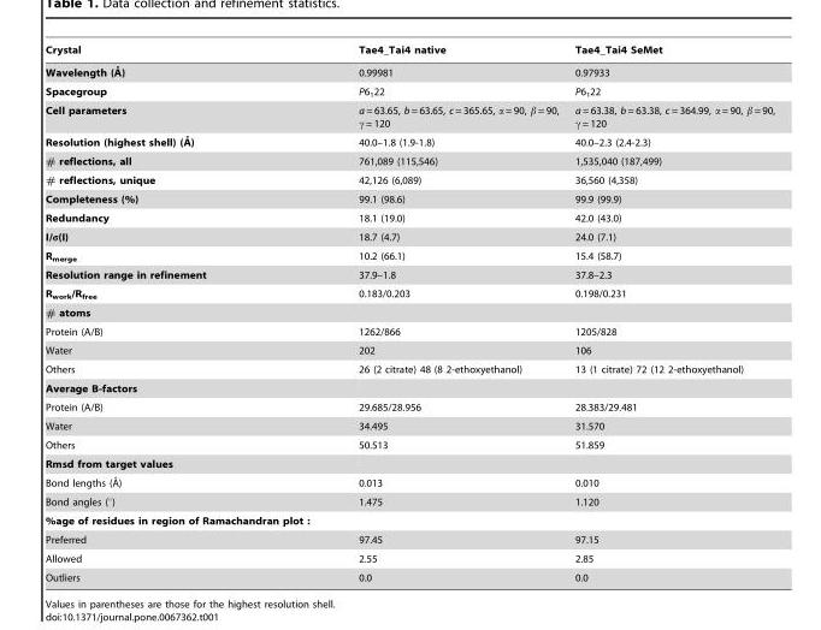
<table><thead><tr><td>Crystal</td><td>Tae4_Tai4 native</td><td>Tae4_Tai4 SeMet</td></tr></thead><tbody><tr><td>Wavelength (A˚)</td><td>0.99981</td><td>0.97933</td></tr><tr><td>Spacegroup</td><td>P6<sub>1</sub>22</td><td>P6<sub>1</sub>22</td></tr><tr><td>Cell parameters</td><td>a = 63.65, b = 63.65, c = 365.65, α = 90, β = 90, γ = 120</td><td>a = 63.38, b = 63.38, c = 364.99, α = 90, β = 90, γ = 120</td></tr><tr><td>Resolution (highest shell) (A˚ )</td><td>40.0–1.8 (1.9-1.8)</td><td>40.0–2.3 (2.4-2.3)</td></tr><tr><td># reflections, all</td><td>761,089 (115,546)</td><td>1,535,040 (187,499)</td></tr><tr><td># reflections, unique</td><td>42,126 (6,089)</td><td>36,560 (4,358)</td></tr><tr><td>Completeness (%)</td><td>99.1 (98.6)</td><td>99.9 (99.9)</td></tr><tr><td>Redundancy</td><td>18.1 (19.0)</td><td>42.0 (43.0)</td></tr><tr><td>I/σ(I)</td><td>18.7 (4.7)</td><td>24.0 (7.1)</td></tr><tr><td>R<sub>merge</sub></td><td>10.2 (66.1)</td><td>15.4 (58.7)</td></tr><tr><td>Resolution range in refinement</td><td>37.9–1.8</td><td>37.8–2.3</td></tr><tr><td>R<sub>work</sub>/R<sub>free</sub></td><td>0.183/0.203</td><td>0.198/0.231</td></tr><tr><td colspan="3"># atoms</td></tr><tr><td>Protein (A/B)</td><td>1262/866</td><td>1205/828</td></tr><tr><td>Water</td><td>202</td><td>106</td></tr><tr><td>Others</td><td>26 (2 citrate) 48 (8 2-ethoxyethanol)</td><td>13 (1 citrate) 72 (12 2-ethoxyethanol)</td></tr><tr><td colspan="3">Average B-factors</td></tr><tr><td>Protein (A/B)</td><td>29.685/28.956</td><td>28.383/29.481</td></tr><tr><td>Water</td><td>34.495</td><td>31.570</td></tr><tr><td>Others</td><td>50.513</td><td>51.859</td></tr><tr><td colspan="3">Rmsd from target values</td></tr><tr><td>Bond lengths (A˚)</td><td>0.013</td><td>0.010</td></tr><tr><td>Bond angles (°)</td><td>1.475</td><td>1.120</td></tr><tr><td colspan="3">%age of residues in region of Ramachandran plot :</td></tr><tr><td>Preferred</td><td>97.45</td><td>97.15</td></tr><tr><td>Allowed</td><td>2.55</td><td>2.85</td></tr><tr><td>Outliers</td><td>0.0</td><td>0.0</td></tr></tbody></table>